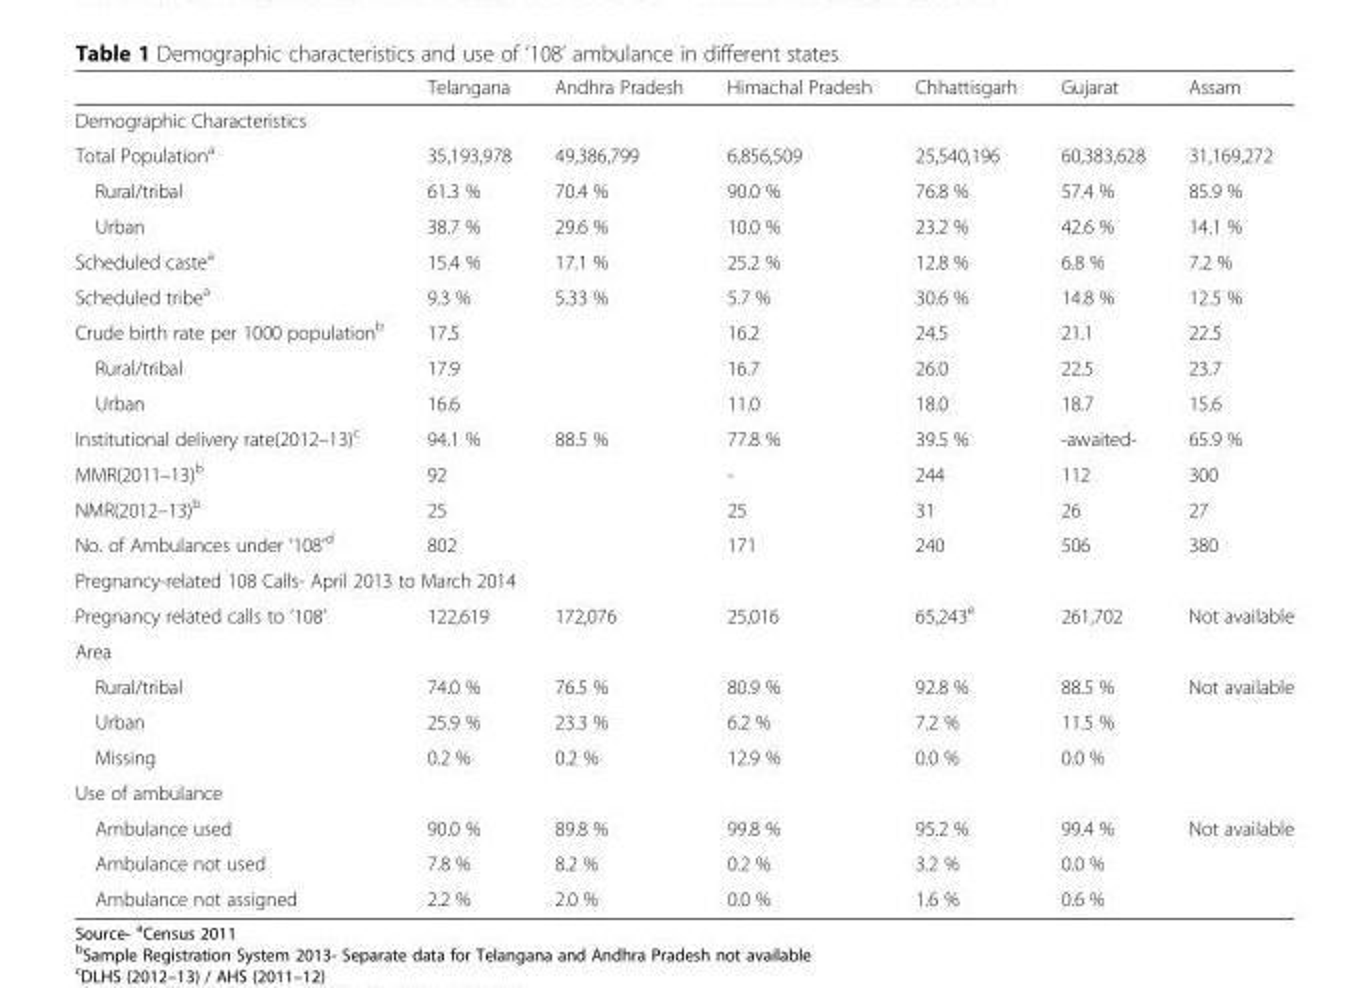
<table><thead><tr><td></td><td>Telangana</td><td>Andhra Pradesh</td><td>Himachal Pradesh</td><td>Chhattisgarh</td><td>Gujarat</td><td>Assam</td></tr></thead><tbody><tr><td colspan="7">Demographic Characteristics</td></tr><tr><td>Total Population<sup>a</sup></td><td>35,193,978</td><td>49,386,799</td><td>6,856,509</td><td>25,540,196</td><td>60,383,628</td><td>31,169,272</td></tr><tr><td>Rural/tribal</td><td>61.3 %</td><td>70.4 %</td><td>90.0 %</td><td>76.8 %</td><td>57.4 %</td><td>85.9 %</td></tr><tr><td>Urban</td><td>38.7 %</td><td>29.6 %</td><td>10.0 %</td><td>23.2 %</td><td>42.6 %</td><td>14.1 %</td></tr><tr><td>Scheduled caste<sup>a</sup></td><td>15.4 %</td><td>17.1 %</td><td>25.2 %</td><td>12.8 %</td><td>6.8 %</td><td>7.2 %</td></tr><tr><td>Scheduled tribe<sup>a</sup></td><td>9.3 %</td><td>5.33 %</td><td>5.7 %</td><td>30.6 %</td><td>14.8 %</td><td>12.5 %</td></tr><tr><td>Crude birth rate per 1000 population<sup>b</sup></td><td colspan="2">17.5</td><td>16.2</td><td>24.5</td><td>21.1</td><td>22.5</td></tr><tr><td>Rural/tribal</td><td colspan="2">17.9</td><td>16.7</td><td>26.0</td><td>22.5</td><td>23.7</td></tr><tr><td>Urban</td><td colspan="2">16.6</td><td>11.0</td><td>18.0</td><td>18.7</td><td>15.6</td></tr><tr><td>Institutional delivery rate(2012–13)<sup>c</sup></td><td>94.1 %</td><td>88.5 %</td><td>77.8 %</td><td>39.5 %</td><td>-awaited-</td><td>65.9 %</td></tr><tr><td>MMR(2011–13)<sup>b</sup></td><td colspan="2">92</td><td>-</td><td>244</td><td>112</td><td>300</td></tr><tr><td>NMR(2012–13)<sup>b</sup></td><td colspan="2">25</td><td>25</td><td>31</td><td>26</td><td>27</td></tr><tr><td>No. of Ambulances under ‘108’<sup>d</sup></td><td colspan="2">802</td><td>171</td><td>240</td><td>506</td><td>380</td></tr><tr><td colspan="7">Pregnancy-related 108 Calls- April 2013 to March 2014</td></tr><tr><td>Pregnancy related calls to ‘108’</td><td>122,619</td><td>172,076</td><td>25,016</td><td>65,243<sup>e</sup></td><td>261,702</td><td>Not available</td></tr><tr><td colspan="7">Area</td></tr><tr><td>Rural/tribal</td><td>74.0 %</td><td>76.5 %</td><td>80.9 %</td><td>92.8 %</td><td>88.5 %</td><td>Not available</td></tr><tr><td>Urban</td><td>25.9 %</td><td>23.3 %</td><td>6.2 %</td><td>7.2 %</td><td>11.5 %</td><td></td></tr><tr><td>Missing</td><td>0.2 %</td><td>0.2 %</td><td>12.9 %</td><td>0.0 %</td><td>0.0 %</td><td></td></tr><tr><td colspan="7">Use of ambulance</td></tr><tr><td>Ambulance used</td><td>90.0 %</td><td>89.8 %</td><td>99.8 %</td><td>95.2 %</td><td>99.4 %</td><td>Not available</td></tr><tr><td>Ambulance not used</td><td>7.8 %</td><td>8.2 %</td><td>0.2 %</td><td>3.2 %</td><td>0.0 %</td><td></td></tr><tr><td>Ambulance not assigned</td><td>2.2 %</td><td>2.0 %</td><td>0.0 %</td><td>1.6 %</td><td>0.6 %</td><td></td></tr></tbody></table>